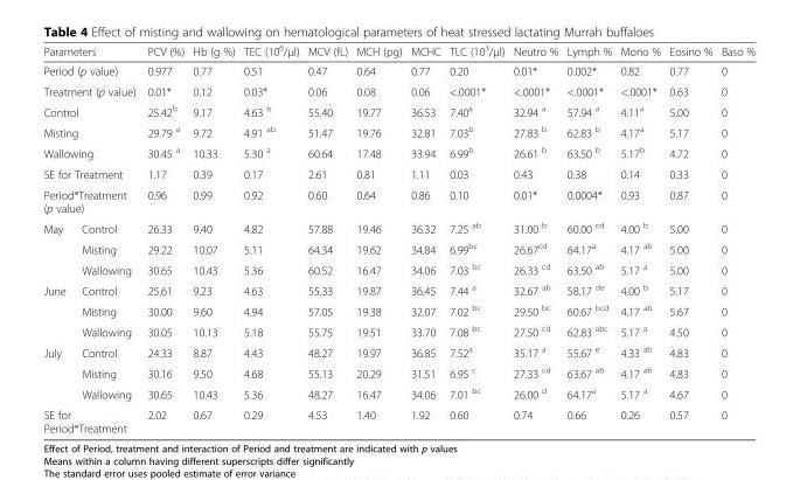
<table><thead><tr><td colspan="2">Parameters</td><td>PCV (%)</td><td>Hb (g %)</td><td>TEC (10<sup>6</sup>/μl)</td><td>MCV (fL)</td><td>MCH (pg)</td><td>MCHC</td><td>TLC (10<sup>3</sup>/μl)</td><td>Neutro %</td><td>Lymph %</td><td>Mono %</td><td>Eosino %</td><td>Baso %</td></tr></thead><tbody><tr><td colspan="2">Period (p value)</td><td>0.977</td><td>0.77</td><td>0.51</td><td>0.47</td><td>0.64</td><td>0.77</td><td>0.20</td><td>0.01*</td><td>0.002*</td><td>0.82</td><td>0.77</td><td>0</td></tr><tr><td colspan="2">Treatment (p value)</td><td>0.01*</td><td>0.12</td><td>0.03*</td><td>0.06</td><td>0.08</td><td>0.06</td><td>&lt;.0001*</td><td>&lt;.0001*</td><td>&lt;.0001*</td><td>&lt;.0001*</td><td>0.63</td><td>0</td></tr><tr><td colspan="2">Control</td><td>25.42<sup>b</sup></td><td>9.17</td><td>4.63 <sup>b</sup></td><td>55.40</td><td>19.77</td><td>36.53</td><td>7.40<sup>a</sup></td><td>32.94 <sup>a</sup></td><td>57.94 <sup>a</sup></td><td>4.11<sup>a</sup></td><td>5.00</td><td>0</td></tr><tr><td colspan="2">Misting</td><td>29.79 <sup>a</sup></td><td>9.72</td><td>4.91 <sup>ab</sup></td><td>51.47</td><td>19.76</td><td>32.81</td><td>7.03<sup>b</sup></td><td>27.83 <sup>b</sup></td><td>62.83 <sup>b</sup></td><td>4.17<sup>a</sup></td><td>5.17</td><td>0</td></tr><tr><td colspan="2">Wallowing</td><td>30.45 <sup>a</sup></td><td>10.33</td><td>5.30 <sup>a</sup></td><td>60.64</td><td>17.48</td><td>33.94</td><td>6.99<sup>b</sup></td><td>26.61 <sup>b</sup></td><td>63.50 <sup>b</sup></td><td>5.17<sup>b</sup></td><td>4.72</td><td>0</td></tr><tr><td colspan="2">SE for Treatment</td><td>1.17</td><td>0.39</td><td>0.17</td><td>2.61</td><td>0.81</td><td>1.11</td><td>0.03</td><td>0.43</td><td>0.38</td><td>0.14</td><td>0.33</td><td>0</td></tr><tr><td colspan="2">Period*Treatment (p value)</td><td>0.96</td><td>0.99</td><td>0.92</td><td>0.60</td><td>0.64</td><td>0.86</td><td>0.10</td><td>0.01*</td><td>0.0004*</td><td>0.93</td><td>0.87</td><td>0</td></tr><tr><td rowspan="3">May</td><td>Control</td><td>26.33</td><td>9.40</td><td>4.82</td><td>57.88</td><td>19.46</td><td>36.32</td><td>7.25 <sup>ab</sup></td><td>31.00 <sup>b</sup></td><td>60.00 <sup>cd</sup></td><td>4.00 <sup>b</sup></td><td>5.00</td><td>0</td></tr><tr><td>Misting</td><td>29.22</td><td>10.07</td><td>5.11</td><td>64.34</td><td>19.62</td><td>34.84</td><td>6.99<sup>bc</sup></td><td>26.67<sup>cd</sup></td><td>64.17<sup>a</sup></td><td>4.17 <sup>ab</sup></td><td>5.00</td><td>0</td></tr><tr><td>Wallowing</td><td>30.65</td><td>10.43</td><td>5.36</td><td>60.52</td><td>16.47</td><td>34.06</td><td>7.03 <sup>bc</sup></td><td>26.33 <sup>cd</sup></td><td>63.50 <sup>ab</sup></td><td>5.17 <sup>a</sup></td><td>5.00</td><td>0</td></tr><tr><td rowspan="3">June</td><td>Control</td><td>25.61</td><td>9.23</td><td>4.63</td><td>55.33</td><td>19.87</td><td>36.45</td><td>7.44 <sup>a</sup></td><td>32.67 <sup>ab</sup></td><td>58.17 <sup>de</sup></td><td>4.00 <sup>b</sup></td><td>5.17</td><td>0</td></tr><tr><td>Misting</td><td>30.00</td><td>9.60</td><td>4.94</td><td>57.05</td><td>19.38</td><td>32.07</td><td>7.02 <sup>bc</sup></td><td>29.50 <sup>bc</sup></td><td>60.67 <sup>bcd</sup></td><td>4.17 <sup>ab</sup></td><td>5.67</td><td>0</td></tr><tr><td>Wallowing</td><td>30.05</td><td>10.13</td><td>5.18</td><td>55.75</td><td>19.51</td><td>33.70</td><td>7.08 <sup>bc</sup></td><td>27.50 <sup>cd</sup></td><td>62.83 <sup>abc</sup></td><td>5.17 <sup>a</sup></td><td>4.50</td><td>0</td></tr><tr><td rowspan="3">July</td><td>Control</td><td>24.33</td><td>8.87</td><td>4.43</td><td>48.27</td><td>19.97</td><td>36.85</td><td>7.52<sup>a</sup></td><td>35.17 <sup>a</sup></td><td>55.67 <sup>e</sup></td><td>4.33 <sup>ab</sup></td><td>4.83</td><td>0</td></tr><tr><td>Misting</td><td>30.16</td><td>9.50</td><td>4.68</td><td>55.13</td><td>20.29</td><td>31.51</td><td>6.95 <sup>c</sup></td><td>27.33 <sup>cd</sup></td><td>63.67 <sup>ab</sup></td><td>4.17 <sup>ab</sup></td><td>4.83</td><td>0</td></tr><tr><td>Wallowing</td><td>30.65</td><td>10.43</td><td>5.36</td><td>48.27</td><td>16.47</td><td>34.06</td><td>7.01 <sup>bc</sup></td><td>26.00 <sup>d</sup></td><td>64.17<sup>a</sup></td><td>5.17 <sup>a</sup></td><td>4.67</td><td>0</td></tr><tr><td colspan="2">SE for Period*Treatment</td><td>2.02</td><td>0.67</td><td>0.29</td><td>4.53</td><td>1.40</td><td>1.92</td><td>0.60</td><td>0.74</td><td>0.66</td><td>0.26</td><td>0.57</td><td>0</td></tr></tbody></table>